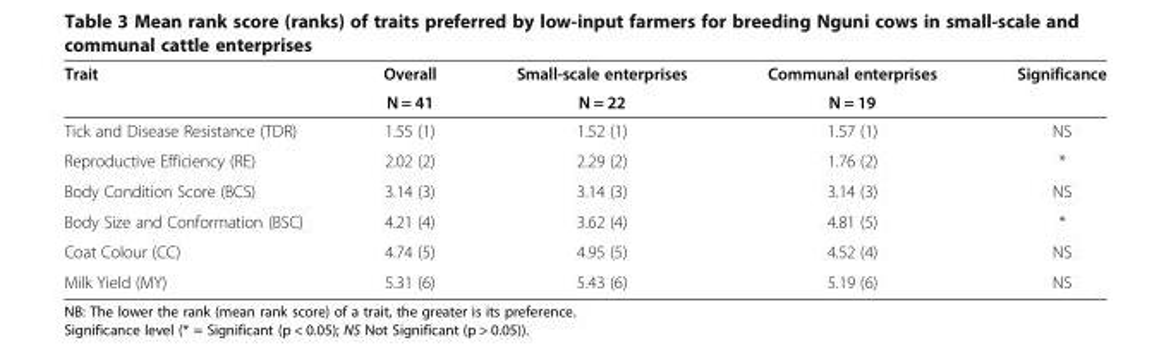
<table><thead><tr><td rowspan="2">Trait</td><td rowspan="2">Overall N = 41</td><td rowspan="2">Small-scale enterprises N = 22</td><td rowspan="2">Communal enterprises N = 19</td><td rowspan="2">Significance</td></tr><tr></tr></thead><tbody><tr><td>Tick and Disease Resistance (TDR)</td><td>1.55 (1)</td><td>1.52 (1)</td><td>1.57 (1)</td><td>NS</td></tr><tr><td>Reproductive Efficiency (RE)</td><td>2.02 (2)</td><td>2.29 (2)</td><td>1.76 (2)</td><td>*</td></tr><tr><td>Body Condition Score (BCS)</td><td>3.14 (3)</td><td>3.14 (3)</td><td>3.14 (3)</td><td>NS</td></tr><tr><td>Body Size and Conformation (BSC)</td><td>4.21 (4)</td><td>3.62 (4)</td><td>4.81 (5)</td><td>*</td></tr><tr><td>Coat Colour (CC)</td><td>4.74 (5)</td><td>4.95 (5)</td><td>4.52 (4)</td><td>NS</td></tr><tr><td>Milk Yield (MY)</td><td>5.31 (6)</td><td>5.43 (6)</td><td>5.19 (6)</td><td>NS</td></tr></tbody></table>